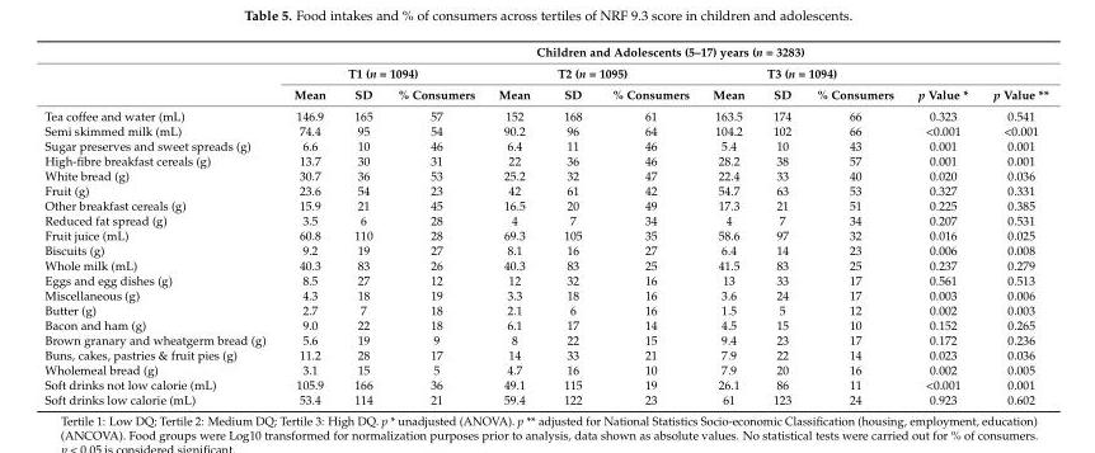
<table><thead><tr><td rowspan="3"></td><td colspan="11">Children and Adolescents (5–17) years (n = 3283)</td></tr><tr><td colspan="3">T1 (n = 1094)</td><td colspan="3">T2 (n = 1095)</td><td colspan="3">T3 (n = 1094)</td><td rowspan="2">p Value *</td><td rowspan="2">p Value **</td></tr><tr><td>Mean</td><td>SD</td><td>% Consumers</td><td>Mean</td><td>SD</td><td>% Consumers</td><td>Mean</td><td>SD</td><td>% Consumers</td></tr></thead><tbody><tr><td>Tea coffee and water (mL)</td><td>146.9</td><td>165</td><td>57</td><td>152</td><td>168</td><td>61</td><td>163.5</td><td>174</td><td>66</td><td>0.323</td><td>0.541</td></tr><tr><td>Semi skimmed milk (mL)</td><td>74.4</td><td>95</td><td>54</td><td>90.2</td><td>96</td><td>64</td><td>104.2</td><td>102</td><td>66</td><td>&lt;0.001</td><td>&lt;0.001</td></tr><tr><td>Sugar preserves and sweet spreads (g)</td><td>6.6</td><td>10</td><td>46</td><td>6.4</td><td>11</td><td>46</td><td>5.4</td><td>10</td><td>43</td><td>0.001</td><td>0.001</td></tr><tr><td>High-fibre breakfast cereals (g)</td><td>13.7</td><td>30</td><td>31</td><td>22</td><td>36</td><td>46</td><td>28.2</td><td>38</td><td>57</td><td>0.001</td><td>0.001</td></tr><tr><td>White bread (g)</td><td>30.7</td><td>36</td><td>53</td><td>25.2</td><td>32</td><td>47</td><td>22.4</td><td>33</td><td>40</td><td>0.020</td><td>0.036</td></tr><tr><td>Fruit (g)</td><td>23.6</td><td>54</td><td>23</td><td>42</td><td>61</td><td>42</td><td>54.7</td><td>63</td><td>53</td><td>0.327</td><td>0.331</td></tr><tr><td>Other breakfast cereals (g)</td><td>15.9</td><td>21</td><td>45</td><td>16.5</td><td>20</td><td>49</td><td>17.3</td><td>21</td><td>51</td><td>0.225</td><td>0.385</td></tr><tr><td>Reduced fat spread (g)</td><td>3.5</td><td>6</td><td>28</td><td>4</td><td>7</td><td>34</td><td>4</td><td>7</td><td>34</td><td>0.207</td><td>0.531</td></tr><tr><td>Fruit juice (mL)</td><td>60.8</td><td>110</td><td>28</td><td>69.3</td><td>105</td><td>35</td><td>58.6</td><td>97</td><td>32</td><td>0.016</td><td>0.025</td></tr><tr><td>Biscuits (g)</td><td>9.2</td><td>19</td><td>27</td><td>8.1</td><td>16</td><td>27</td><td>6.4</td><td>14</td><td>23</td><td>0.006</td><td>0.008</td></tr><tr><td>Whole milk (mL)</td><td>40.3</td><td>83</td><td>26</td><td>40.3</td><td>83</td><td>25</td><td>41.5</td><td>83</td><td>25</td><td>0.237</td><td>0.279</td></tr><tr><td>Eggs and egg dishes (g)</td><td>8.5</td><td>27</td><td>12</td><td>12</td><td>32</td><td>16</td><td>13</td><td>33</td><td>17</td><td>0.561</td><td>0.513</td></tr><tr><td>Miscellaneous (g)</td><td>4.3</td><td>18</td><td>19</td><td>3.3</td><td>18</td><td>16</td><td>3.6</td><td>24</td><td>17</td><td>0.003</td><td>0.006</td></tr><tr><td>Butter (g)</td><td>2.7</td><td>7</td><td>18</td><td>2.1</td><td>6</td><td>16</td><td>1.5</td><td>5</td><td>12</td><td>0.002</td><td>0.003</td></tr><tr><td>Bacon and ham (g)</td><td>9.0</td><td>22</td><td>18</td><td>6.1</td><td>17</td><td>14</td><td>4.5</td><td>15</td><td>10</td><td>0.152</td><td>0.265</td></tr><tr><td>Brown granary and wheatgerm bread (g)</td><td>5.6</td><td>19</td><td>9</td><td>8</td><td>22</td><td>15</td><td>9.4</td><td>23</td><td>17</td><td>0.172</td><td>0.236</td></tr><tr><td>Buns, cakes, pastries &amp; fruit pies (g)</td><td>11.2</td><td>28</td><td>17</td><td>14</td><td>33</td><td>21</td><td>7.9</td><td>22</td><td>14</td><td>0.023</td><td>0.036</td></tr><tr><td>Wholemeal bread (g)</td><td>3.1</td><td>15</td><td>5</td><td>4.7</td><td>16</td><td>10</td><td>7.9</td><td>20</td><td>16</td><td>0.002</td><td>0.005</td></tr><tr><td>Soft drinks not low calorie (mL)</td><td>105.9</td><td>166</td><td>36</td><td>49.1</td><td>115</td><td>19</td><td>26.1</td><td>86</td><td>11</td><td>&lt;0.001</td><td>0.001</td></tr><tr><td>Soft drinks low calorie (mL)</td><td>53.4</td><td>114</td><td>21</td><td>59.4</td><td>122</td><td>23</td><td>61</td><td>123</td><td>24</td><td>0.923</td><td>0.602</td></tr></tbody></table>